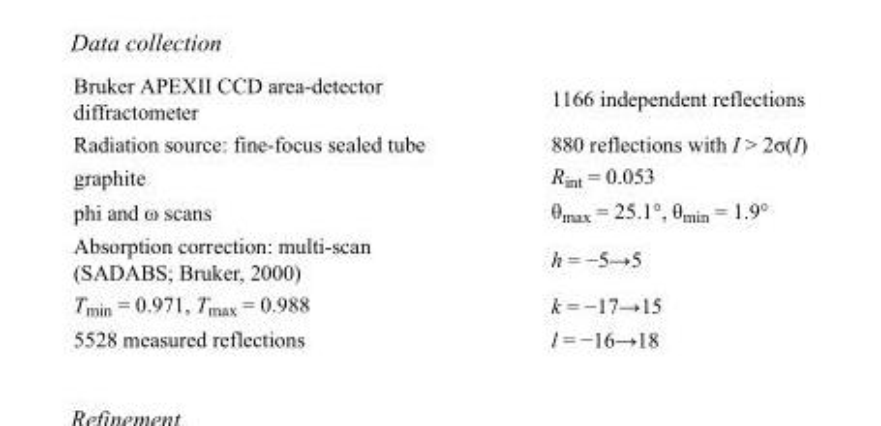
<table><tbody><tr><td>Bruker APEXII CCD area-detector diffractometer</td><td>1166 independent reflections</td></tr><tr><td>Radiation source: fine-focus sealed tube</td><td>880 reflections with I &gt; 2σ(I)</td></tr><tr><td>graphite</td><td>R<sub>int</sub> = 0.053</td></tr><tr><td>phi and ω scans</td><td>θ<sub>max</sub> = 25.1°, θ<sub>min</sub> = 1.9°</td></tr><tr><td>Absorption correction: multi-scan (SADABS; Bruker, 2000)</td><td>h = −5→5</td></tr><tr><td>T<sub>min</sub> = 0.971, T<sub>max</sub> = 0.988</td><td>k = −17→15</td></tr><tr><td>5528 measured reflections</td><td>l = −16→18</td></tr></tbody></table>